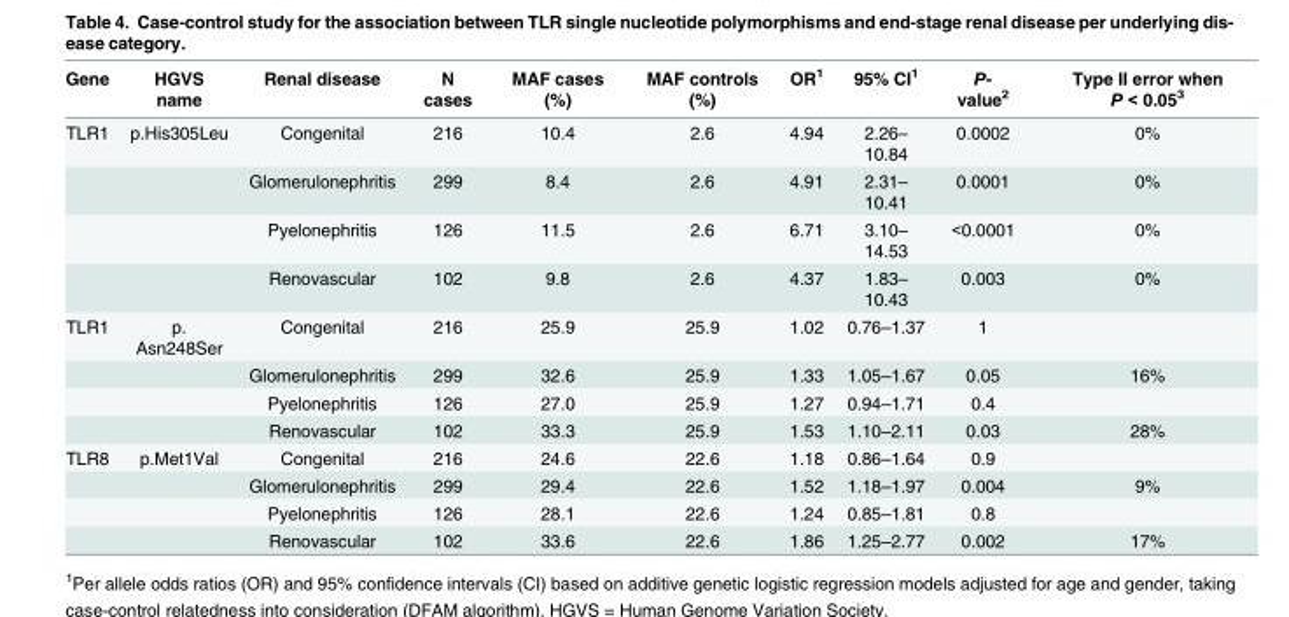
<table><thead><tr><td>Gene</td><td>HGVS name</td><td>Renal disease</td><td>N cases</td><td>MAF cases (%)</td><td>MAF controls (%)</td><td>OR<sup>1</sup></td><td>95% CI<sup>1</sup></td><td>P- value<sup>2</sup></td><td>Type II error when P &lt; 0.05<sup>3</sup></td></tr></thead><tbody><tr><td rowspan="4">TLR1</td><td>p.His305Leu</td><td>Congenital</td><td>216</td><td>10.4</td><td>2.6</td><td>4.94</td><td>2.26– 10.84</td><td>0.0002</td><td>0%</td></tr><tr><td></td><td>Glomerulonephritis</td><td>299</td><td>8.4</td><td>2.6</td><td>4.91</td><td>2.31– 10.41</td><td>0.0001</td><td>0%</td></tr><tr><td></td><td>Pyelonephritis</td><td>126</td><td>11.5</td><td>2.6</td><td>6.71</td><td>3.10– 14.53</td><td>&lt;0.0001</td><td>0%</td></tr><tr><td></td><td>Renovascular</td><td>102</td><td>9.8</td><td>2.6</td><td>4.37</td><td>1.83– 10.43</td><td>0.003</td><td>0%</td></tr><tr><td rowspan="4">TLR1</td><td>p. Asn248Ser</td><td>Congenital</td><td>216</td><td>25.9</td><td>25.9</td><td>1.02</td><td>0.76–1.37</td><td>1</td><td></td></tr><tr><td></td><td>Glomerulonephritis</td><td>299</td><td>32.6</td><td>25.9</td><td>1.33</td><td>1.05–1.67</td><td>0.05</td><td>16%</td></tr><tr><td></td><td>Pyelonephritis</td><td>126</td><td>27.0</td><td>25.9</td><td>1.27</td><td>0.94–1.71</td><td>0.4</td><td></td></tr><tr><td></td><td>Renovascular</td><td>102</td><td>33.3</td><td>25.9</td><td>1.53</td><td>1.10–2.11</td><td>0.03</td><td>28%</td></tr><tr><td rowspan="4">TLR8</td><td>p.Met1Val</td><td>Congenital</td><td>216</td><td>24.6</td><td>22.6</td><td>1.18</td><td>0.86–1.64</td><td>0.9</td><td></td></tr><tr><td></td><td>Glomerulonephritis</td><td>299</td><td>29.4</td><td>22.6</td><td>1.52</td><td>1.18–1.97</td><td>0.004</td><td>9%</td></tr><tr><td></td><td>Pyelonephritis</td><td>126</td><td>28.1</td><td>22.6</td><td>1.24</td><td>0.85–1.81</td><td>0.8</td><td></td></tr><tr><td></td><td>Renovascular</td><td>102</td><td>33.6</td><td>22.6</td><td>1.86</td><td>1.25–2.77</td><td>0.002</td><td>17%</td></tr></tbody></table>